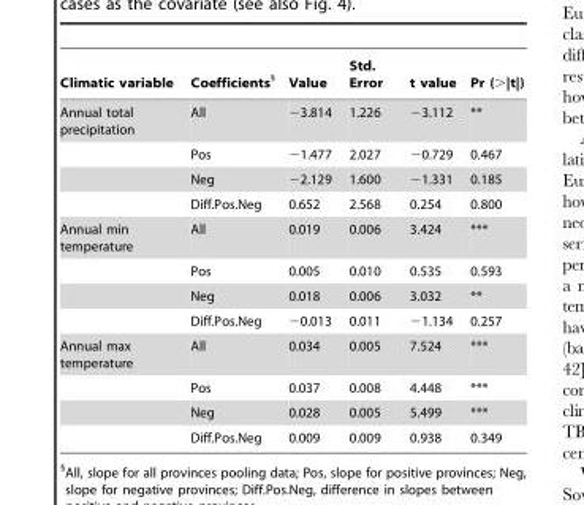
<table><thead><tr><td>Climatic variable</td><td>Coefficients§</td><td>Value</td><td>Std. Error</td><td>t value</td><td>Pr (&gt;|t|)</td></tr></thead><tbody><tr><td rowspan="4">Annual total precipitation</td><td>All</td><td>−3.814</td><td>1.226</td><td>−3.112</td><td>**</td></tr><tr><td>Pos</td><td>−1.477</td><td>2.027</td><td>−0.729</td><td>0.467</td></tr><tr><td>Neg</td><td>−2.129</td><td>1.600</td><td>−1.331</td><td>0.185</td></tr><tr><td>Diff.Pos.Neg</td><td>0.652</td><td>2.568</td><td>0.254</td><td>0.800</td></tr><tr><td rowspan="4">Annual min temperature</td><td>All</td><td>0.019</td><td>0.006</td><td>3.424</td><td>***</td></tr><tr><td>Pos</td><td>0.005</td><td>0.010</td><td>0.535</td><td>0.593</td></tr><tr><td>Neg</td><td>0.018</td><td>0.006</td><td>3.032</td><td>**</td></tr><tr><td>Diff.Pos.Neg</td><td>−0.013</td><td>0.011</td><td>−1.134</td><td>0.257</td></tr><tr><td rowspan="4">Annual max temperature</td><td>All</td><td>0.034</td><td>0.005</td><td>7.524</td><td>***</td></tr><tr><td>Pos</td><td>0.037</td><td>0.008</td><td>4.448</td><td>***</td></tr><tr><td>Neg</td><td>0.028</td><td>0.005</td><td>5.499</td><td>***</td></tr><tr><td>Diff.Pos.Neg</td><td>0.009</td><td>0.009</td><td>0.938</td><td>0.349</td></tr></tbody></table>